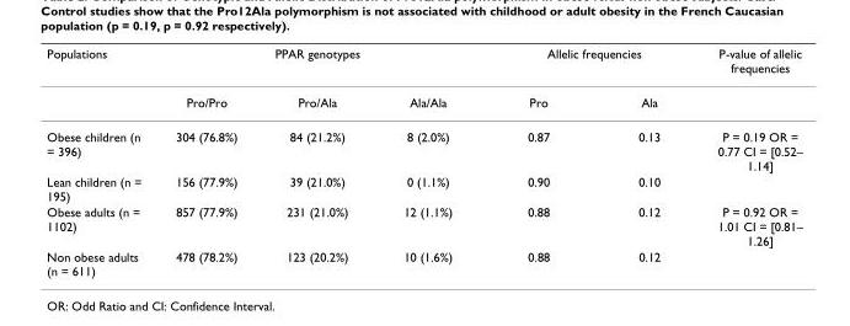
<table><thead><tr><td rowspan="2">Populations</td><td colspan="3">PPAR genotypes</td><td colspan="2">Allelic frequencies</td><td rowspan="2">P-value of allelic frequencies</td></tr><tr><td>Pro/Pro</td><td>Pro/Ala</td><td>Ala/Ala</td><td>Pro</td><td>Ala</td></tr></thead><tbody><tr><td>Obese children (n = 396)</td><td>304 (76.8%)</td><td>84 (21.2%)</td><td>8 (2.0%)</td><td>0.87</td><td>0.13</td><td>P = 0.19 OR = 0.77 CI = [0.52– 1.14]</td></tr><tr><td>Lean children (n = 195)</td><td>156 (77.9%)</td><td>39 (21.0%)</td><td>0 (1.1%)</td><td>0.90</td><td>0.10</td><td></td></tr><tr><td>Obese adults (n = 1102)</td><td>857 (77.9%)</td><td>231 (21.0%)</td><td>12 (1.1%)</td><td>0.88</td><td>0.12</td><td>P = 0.92 OR = 1.01 CI = [0.81– 1.26]</td></tr><tr><td>Non obese adults (n = 611)</td><td>478 (78.2%)</td><td>123 (20.2%)</td><td>10 (1.6%)</td><td>0.88</td><td>0.12</td><td></td></tr></tbody></table>